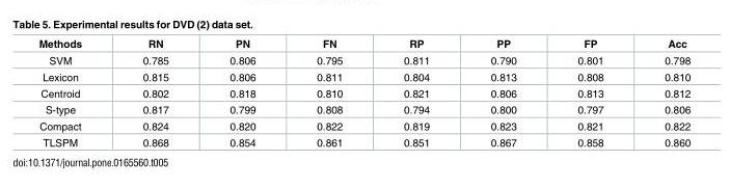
<table><thead><tr><td>Methods</td><td>RN</td><td>PN</td><td>FN</td><td>RP</td><td>PP</td><td>FP</td><td>Acc</td></tr></thead><tbody><tr><td>SVM</td><td>0.785</td><td>0.806</td><td>0.795</td><td>0.811</td><td>0.790</td><td>0.801</td><td>0.798</td></tr><tr><td>Lexicon</td><td>0.815</td><td>0.806</td><td>0.811</td><td>0.804</td><td>0.813</td><td>0.808</td><td>0.810</td></tr><tr><td>Centroid</td><td>0.802</td><td>0.818</td><td>0.810</td><td>0.821</td><td>0.806</td><td>0.813</td><td>0.812</td></tr><tr><td>S-type</td><td>0.817</td><td>0.799</td><td>0.808</td><td>0.794</td><td>0.800</td><td>0.797</td><td>0.806</td></tr><tr><td>Compact</td><td>0.824</td><td>0.820</td><td>0.822</td><td>0.819</td><td>0.823</td><td>0.821</td><td>0.822</td></tr><tr><td>TLSPM</td><td>0.868</td><td>0.854</td><td>0.861</td><td>0.851</td><td>0.867</td><td>0.858</td><td>0.860</td></tr></tbody></table>